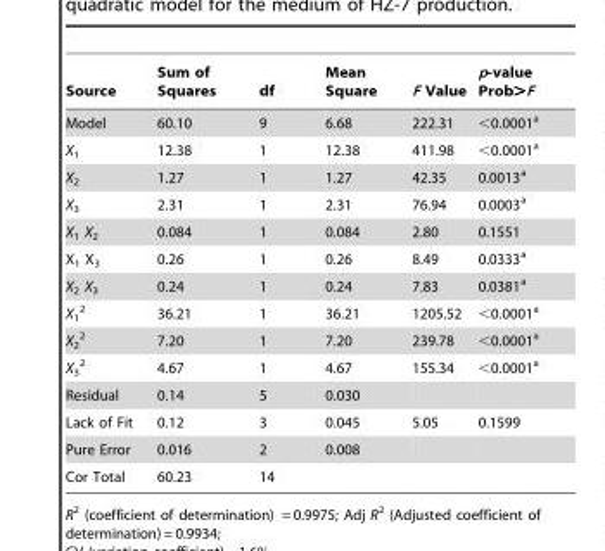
<table><thead><tr><td>Source</td><td>Sum of Squares</td><td>df</td><td>Mean Square</td><td>F Value</td><td>p-value Prob&gt;F</td></tr></thead><tbody><tr><td>Model</td><td>60.10</td><td>9</td><td>6.68</td><td>222.31</td><td>&lt;0.0001<sup>a</sup></td></tr><tr><td>X<sub>1</sub></td><td>12.38</td><td>1</td><td>12.38</td><td>411.98</td><td>&lt;0.0001<sup>a</sup></td></tr><tr><td>X<sub>2</sub></td><td>1.27</td><td>1</td><td>1.27</td><td>42.35</td><td>0.0013<sup>a</sup></td></tr><tr><td>X<sub>3</sub></td><td>2.31</td><td>1</td><td>2.31</td><td>76.94</td><td>0.0003<sup>a</sup></td></tr><tr><td>X<sub>1</sub> X<sub>2</sub></td><td>0.084</td><td>1</td><td>0.084</td><td>2.80</td><td>0.1551</td></tr><tr><td>X<sub>1</sub> X<sub>3</sub></td><td>0.26</td><td>1</td><td>0.26</td><td>8.49</td><td>0.0333<sup>a</sup></td></tr><tr><td>X<sub>2</sub> X<sub>3</sub></td><td>0.24</td><td>1</td><td>0.24</td><td>7.83</td><td>0.0381<sup>a</sup></td></tr><tr><td>X<sub>1</sub> <sup>2</sup></td><td>36.21</td><td>1</td><td>36.21</td><td>1205.52</td><td>&lt;0.0001<sup>a</sup></td></tr><tr><td>X<sub>2</sub> <sup>2</sup></td><td>7.20</td><td>1</td><td>7.20</td><td>239.78</td><td>&lt;0.0001<sup>a</sup></td></tr><tr><td>X<sub>3</sub> <sup>2</sup></td><td>4.67</td><td>1</td><td>4.67</td><td>155.34</td><td>&lt;0.0001<sup>a</sup></td></tr><tr><td>Residual</td><td>0.14</td><td>5</td><td>0.030</td><td></td><td></td></tr><tr><td>Lack of Fit</td><td>0.12</td><td>3</td><td>0.045</td><td>5.05</td><td>0.1599</td></tr><tr><td>Pure Error</td><td>0.016</td><td>2</td><td>0.008</td><td></td><td></td></tr><tr><td>Cor Total</td><td>60.23</td><td>14</td><td></td><td></td><td></td></tr></tbody></table>